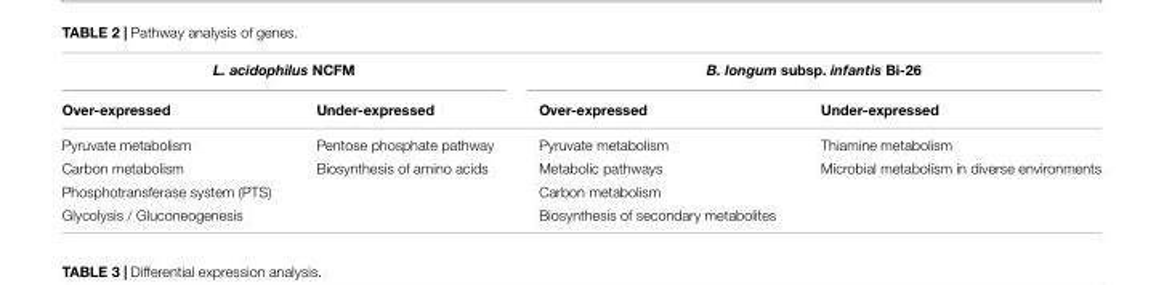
<table><thead><tr><td colspan="2">L. acidophilus NCFM</td><td colspan="2">B. longum subsp. infantis Bi-26</td></tr><tr><td>Over-expressed</td><td>Under-expressed</td><td>Over-expressed</td><td>Under-expressed</td></tr></thead><tbody><tr><td>Pyruvate metabolism</td><td>Pentose phosphate pathway</td><td>Pyruvate metabolism</td><td>Thiamine metabolism</td></tr><tr><td>Carbon metabolism</td><td>Biosynthesis of amino acids</td><td>Metabolic pathways</td><td>Microbial metabolism in diverse environments</td></tr><tr><td>Phosphotransferase system (PTS)</td><td></td><td>Carbon metabolism</td><td></td></tr><tr><td>Glycolysis / Gluconeogenesis</td><td></td><td>Biosynthesis of secondary metabolites</td><td></td></tr></tbody></table>